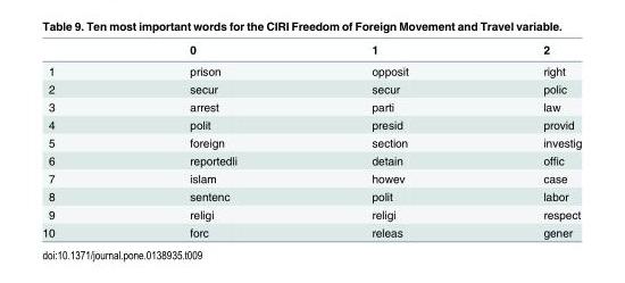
<table><thead><tr><td></td><td>0</td><td>1</td><td>2</td></tr></thead><tbody><tr><td>1</td><td>prison</td><td>opposit</td><td>right</td></tr><tr><td>2</td><td>secur</td><td>secur</td><td>polic</td></tr><tr><td>3</td><td>arrest</td><td>parti</td><td>law</td></tr><tr><td>4</td><td>polit</td><td>presid</td><td>provid</td></tr><tr><td>5</td><td>foreign</td><td>section</td><td>investig</td></tr><tr><td>6</td><td>reportedli</td><td>detain</td><td>offic</td></tr><tr><td>7</td><td>islam</td><td>howev</td><td>case</td></tr><tr><td>8</td><td>sentenc</td><td>polit</td><td>labor</td></tr><tr><td>9</td><td>religi</td><td>religi</td><td>respect</td></tr><tr><td>10</td><td>forc</td><td>releas</td><td>gener</td></tr></tbody></table>